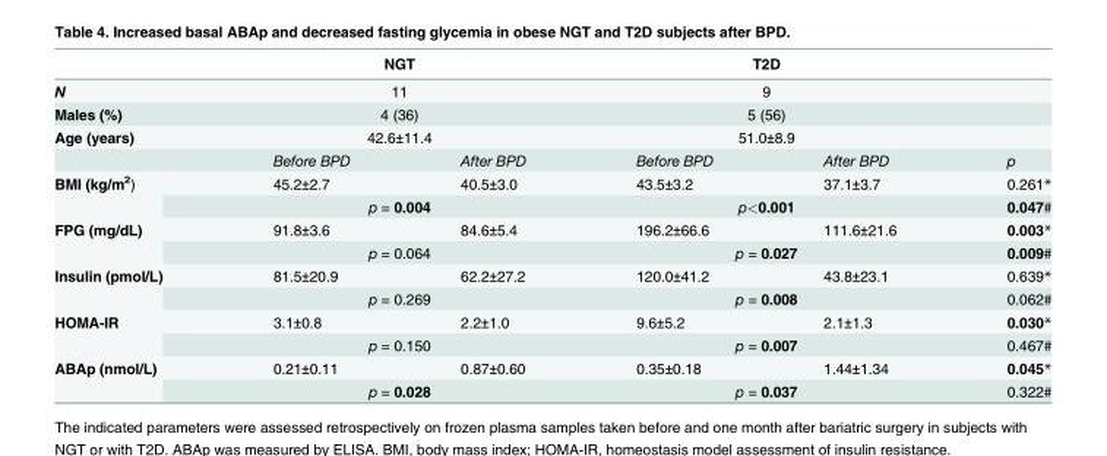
<table><thead><tr><td></td><td colspan="2">NGT</td><td colspan="2">T2D</td><td></td></tr></thead><tbody><tr><td>N</td><td colspan="2">11</td><td colspan="2">9</td><td></td></tr><tr><td>Males (%)</td><td colspan="2">4 (36)</td><td colspan="2">5 (56)</td><td></td></tr><tr><td rowspan="2">Age (years)</td><td colspan="2">42.6±11.4</td><td colspan="2">51.0±8.9</td><td></td></tr><tr><td>Before BPD</td><td>After BPD</td><td>Before BPD</td><td>After BPD</td><td>p</td></tr><tr><td rowspan="2">BMI (kg/m<sup>2</sup>)</td><td>45.2±2.7</td><td>40.5±3.0</td><td>43.5±3.2</td><td>37.1±3.7</td><td>0.261*</td></tr><tr><td colspan="2">p = 0.004</td><td colspan="2">p&lt;0.001</td><td>0.047#</td></tr><tr><td rowspan="2">FPG (mg/dL)</td><td>91.8±3.6</td><td>84.6±5.4</td><td>196.2±66.6</td><td>111.6±21.6</td><td>0.003*</td></tr><tr><td colspan="2">p = 0.064</td><td colspan="2">p = 0.027</td><td>0.009#</td></tr><tr><td rowspan="2">Insulin (pmol/L)</td><td>81.5±20.9</td><td>62.2±27.2</td><td>120.0±41.2</td><td>43.8±23.1</td><td>0.639*</td></tr><tr><td colspan="2">p = 0.269</td><td colspan="2">p = 0.008</td><td>0.062#</td></tr><tr><td rowspan="2">HOMA-IR</td><td>3.1±0.8</td><td>2.2±1.0</td><td>9.6±5.2</td><td>2.1±1.3</td><td>0.030*</td></tr><tr><td colspan="2">p = 0.150</td><td colspan="2">p = 0.007</td><td>0.467#</td></tr><tr><td rowspan="2">ABAp (nmol/L)</td><td>0.21±0.11</td><td>0.87±0.60</td><td>0.35±0.18</td><td>1.44±1.34</td><td>0.045*</td></tr><tr><td colspan="2">p = 0.028</td><td colspan="2">p = 0.037</td><td>0.322#</td></tr></tbody></table>